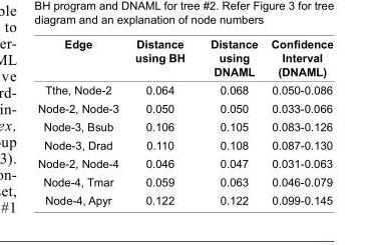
<table><thead><tr><td>Edge</td><td>Distance using BH</td><td>Distance using DNAML</td><td>Confi dence Interval (DNAML)</td></tr></thead><tbody><tr><td>Tthe, Node-2</td><td>0.064</td><td>0.068</td><td>0.050-0.086</td></tr><tr><td>Node-2, Node-3</td><td>0.050</td><td>0.050</td><td>0.033-0.066</td></tr><tr><td>Node-3, Bsub</td><td>0.106</td><td>0.105</td><td>0.083-0.126</td></tr><tr><td>Node-3, Drad</td><td>0.110</td><td>0.108</td><td>0.087-0.130</td></tr><tr><td>Node-2, Node-4</td><td>0.046</td><td>0.047</td><td>0.031-0.063</td></tr><tr><td>Node-4, Tmar</td><td>0.059</td><td>0.063</td><td>0.046-0.079</td></tr><tr><td>Node-4, Apyr</td><td>0.122</td><td>0.122</td><td>0.099-0.145</td></tr></tbody></table>